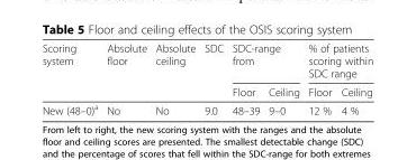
<table><thead><tr><td rowspan="2">Scoring system</td><td rowspan="2">Absolute floor</td><td rowspan="2">Absolute ceiling</td><td rowspan="2">SDC</td><td colspan="2">SDC-range from</td><td colspan="2">% of patients scoring within SDC range</td></tr><tr><td>Floor</td><td>Ceiling</td><td>Floor</td><td>Ceiling</td></tr></thead><tbody><tr><td>New (48–0)<sup>a</sup></td><td>No</td><td>No</td><td>9.0</td><td>48–39</td><td>9–0</td><td>12 %</td><td>4 %</td></tr></tbody></table>